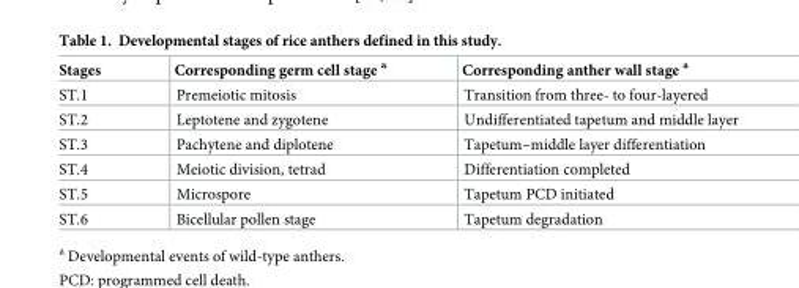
<table><thead><tr><td>Stages</td><td>Corresponding germ cell stage <sup>a</sup></td><td>Corresponding anther wall stage <sup>a</sup></td></tr></thead><tbody><tr><td>ST.1</td><td>Premeiotic mitosis</td><td>Transition from three- to four-layered</td></tr><tr><td>ST.2</td><td>Leptotene and zygotene</td><td>Undifferentiated tapetum and middle layer</td></tr><tr><td>ST.3</td><td>Pachytene and diplotene</td><td>Tapetum–middle layer differentiation</td></tr><tr><td>ST.4</td><td>Meiotic division, tetrad</td><td>Differentiation completed</td></tr><tr><td>ST.5</td><td>Microspore</td><td>Tapetum PCD initiated</td></tr><tr><td>ST.6</td><td>Bicellular pollen stage</td><td>Tapetum degradation</td></tr></tbody></table>